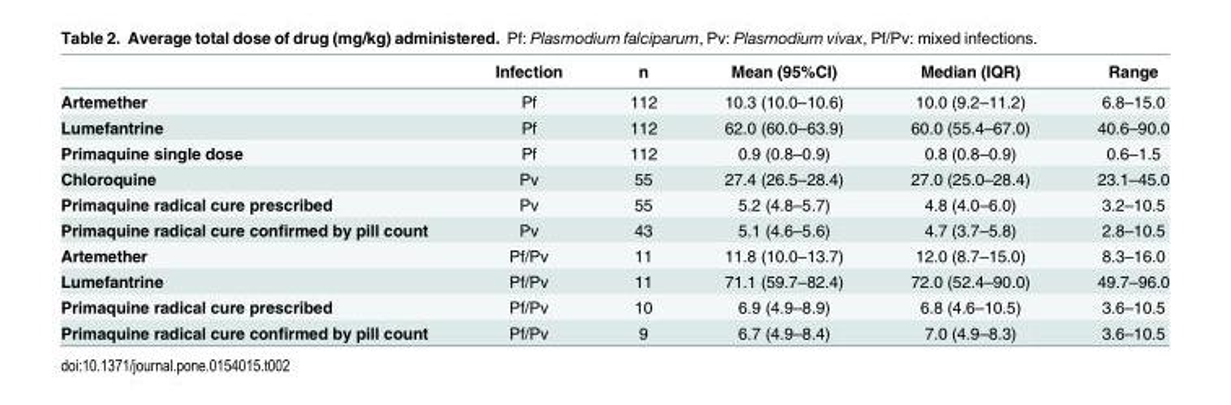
<table><thead><tr><td></td><td>Infection</td><td>n</td><td>Mean (95%CI)</td><td>Median (IQR)</td><td>Range</td></tr></thead><tbody><tr><td>Artemether</td><td>Pf</td><td>112</td><td>10.3 (10.0–10.6)</td><td>10.0 (9.2–11.2)</td><td>6.8–15.0</td></tr><tr><td>Lumefantrine</td><td>Pf</td><td>112</td><td>62.0 (60.0–63.9)</td><td>60.0 (55.4–67.0)</td><td>40.6–90.0</td></tr><tr><td>Primaquine single dose</td><td>Pf</td><td>112</td><td>0.9 (0.8–0.9)</td><td>0.8 (0.8–0.9)</td><td>0.6–1.5</td></tr><tr><td>Chloroquine</td><td>Pv</td><td>55</td><td>27.4 (26.5–28.4)</td><td>27.0 (25.0–28.4)</td><td>23.1–45.0</td></tr><tr><td>Primaquine radical cure prescribed</td><td>Pv</td><td>55</td><td>5.2 (4.8–5.7)</td><td>4.8 (4.0–6.0)</td><td>3.2–10.5</td></tr><tr><td>Primaquine radical cure confirmed by pill count</td><td>Pv</td><td>43</td><td>5.1 (4.6–5.6)</td><td>4.7 (3.7–5.8)</td><td>2.8–10.5</td></tr><tr><td>Artemether</td><td>Pf/Pv</td><td>11</td><td>11.8 (10.0–13.7)</td><td>12.0 (8.7–15.0)</td><td>8.3–16.0</td></tr><tr><td>Lumefantrine</td><td>Pf/Pv</td><td>11</td><td>71.1 (59.7–82.4)</td><td>72.0 (52.4–90.0)</td><td>49.7–96.0</td></tr><tr><td>Primaquine radical cure prescribed</td><td>Pf/Pv</td><td>10</td><td>6.9 (4.9–8.9)</td><td>6.8 (4.6–10.5)</td><td>3.6–10.5</td></tr><tr><td>Primaquine radical cure confirmed by pill count</td><td>Pf/Pv</td><td>9</td><td>6.7 (4.9–8.4)</td><td>7.0 (4.9–8.3)</td><td>3.6–10.5</td></tr></tbody></table>